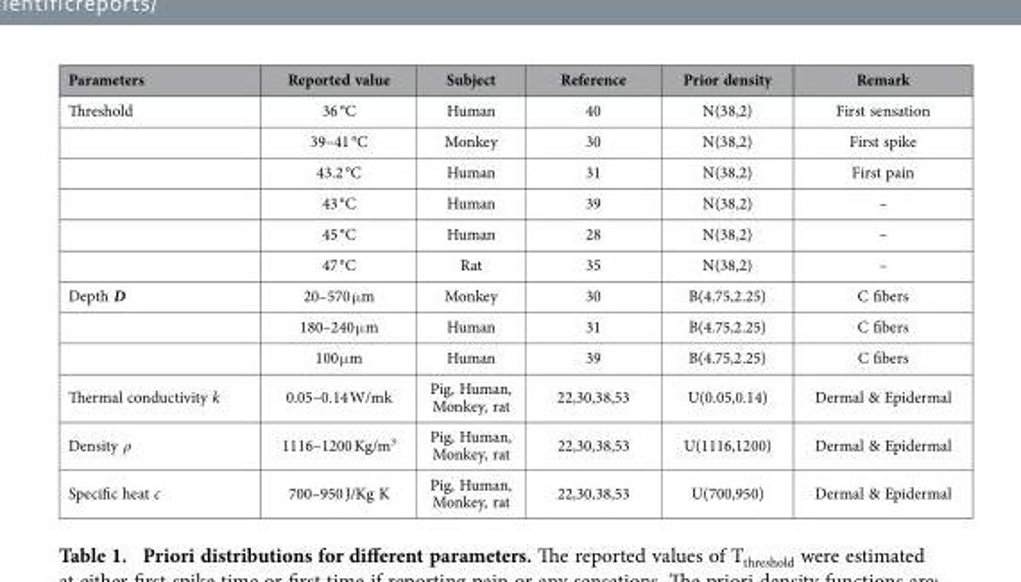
<table><thead><tr><td>Parameters</td><td>Reported value</td><td>Subject</td><td>Reference</td><td>Prior density</td><td>Remark</td></tr></thead><tbody><tr><td rowspan="6">Threshold</td><td>36 °C</td><td>Human</td><td>40</td><td>N(38,2)</td><td>First sensation</td></tr><tr><td>39–41 °C</td><td>Monkey</td><td>30</td><td>N(38,2)</td><td>First spike</td></tr><tr><td>43.2 °C</td><td>Human</td><td>31</td><td>N(38,2)</td><td>First pain</td></tr><tr><td>43 °C</td><td>Human</td><td>39</td><td>N(38,2)</td><td>–</td></tr><tr><td>45 °C</td><td>Human</td><td>28</td><td>N(38,2)</td><td>–</td></tr><tr><td>47 °C</td><td>Rat</td><td>35</td><td>N(38,2)</td><td>–</td></tr><tr><td rowspan="3">Depth D</td><td>20–570 μ m</td><td>Monkey</td><td>30</td><td>B(4.75,2.25)</td><td>C fibers</td></tr><tr><td>180–240 μ m</td><td>Human</td><td>31</td><td>B(4.75,2.25)</td><td>C fibers</td></tr><tr><td>100 μ m</td><td>Human</td><td>39</td><td>B(4.75,2.25)</td><td>C fibers</td></tr><tr><td>Thermal conductivity k</td><td>0.05–0.14 W/mk</td><td>Pig, Human, Monkey, rat</td><td>22,30,38,53</td><td>U(0.05,0.14)</td><td>Dermal &amp; Epidermal</td></tr><tr><td>Density ρ</td><td>1116–1200 Kg/m<sup>3</sup></td><td>Pig, Human, Monkey, rat</td><td>22,30,38,53</td><td>U(1116,1200)</td><td>Dermal &amp; Epidermal</td></tr><tr><td>Specific heat c</td><td>700–950 J/Kg K</td><td>Pig, Human, Monkey, rat</td><td>22,30,38,53</td><td>U(700,950)</td><td>Dermal &amp; Epidermal</td></tr></tbody></table>